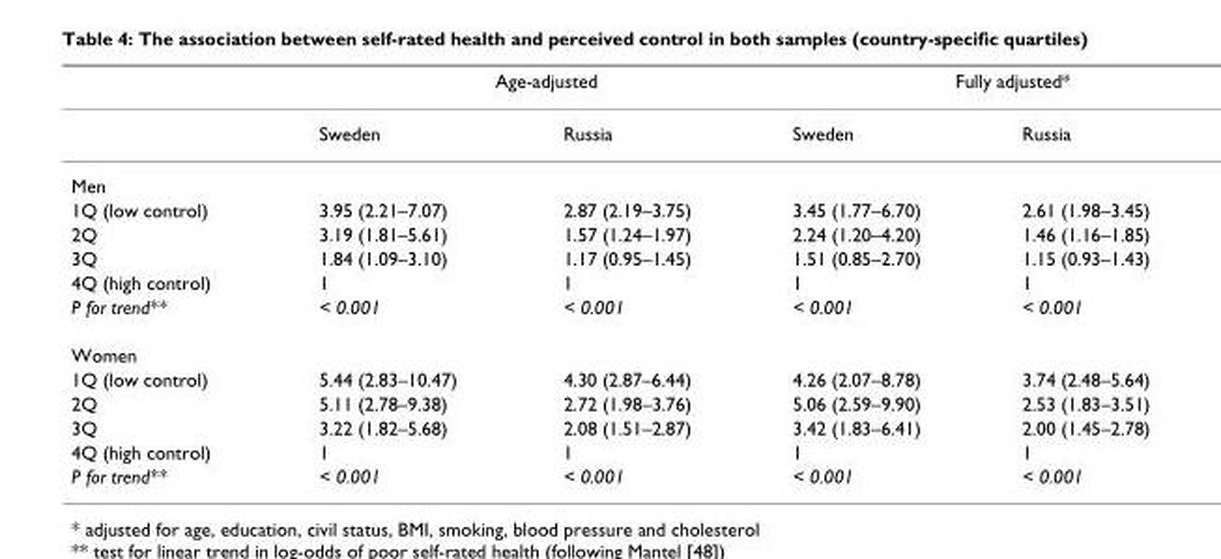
<table><thead><tr><td rowspan="2"></td><td colspan="2">Age-adjusted</td><td colspan="2">Fully adjusted*</td></tr><tr><td>Sweden</td><td>Russia</td><td>Sweden</td><td>Russia</td></tr></thead><tbody><tr><td colspan="5">Men</td></tr><tr><td>1Q (low control)</td><td>3.95 (2.21–7.07)</td><td>2.87 (2.19–3.75)</td><td>3.45 (1.77–6.70)</td><td>2.61 (1.98–3.45)</td></tr><tr><td>2Q</td><td>3.19 (1.81–5.61)</td><td>1.57 (1.24–1.97)</td><td>2.24 (1.20–4.20)</td><td>1.46 (1.16–1.85)</td></tr><tr><td>3Q</td><td>1.84 (1.09–3.10)</td><td>1.17 (0.95–1.45)</td><td>1.51 (0.85–2.70)</td><td>1.15 (0.93–1.43)</td></tr><tr><td>4Q (high control)</td><td>1</td><td>1</td><td>1</td><td>1</td></tr><tr><td>P for trend**</td><td>&lt; 0.001</td><td>&lt; 0.001</td><td>&lt; 0.001</td><td>&lt; 0.001</td></tr><tr><td colspan="5">Women</td></tr><tr><td>1Q (low control)</td><td>5.44 (2.83–10.47)</td><td>4.30 (2.87–6.44)</td><td>4.26 (2.07–8.78)</td><td>3.74 (2.48–5.64)</td></tr><tr><td>2Q</td><td>5.11 (2.78–9.38)</td><td>2.72 (1.98–3.76)</td><td>5.06 (2.59–9.90)</td><td>2.53 (1.83–3.51)</td></tr><tr><td>3Q</td><td>3.22 (1.82–5.68)</td><td>2.08 (1.51–2.87)</td><td>3.42 (1.83–6.41)</td><td>2.00 (1.45–2.78)</td></tr><tr><td>4Q (high control)</td><td>1</td><td>1</td><td>1</td><td>1</td></tr><tr><td>P for trend**</td><td>&lt; 0.001</td><td>&lt; 0.001</td><td>&lt; 0.001</td><td>&lt; 0.001</td></tr></tbody></table>